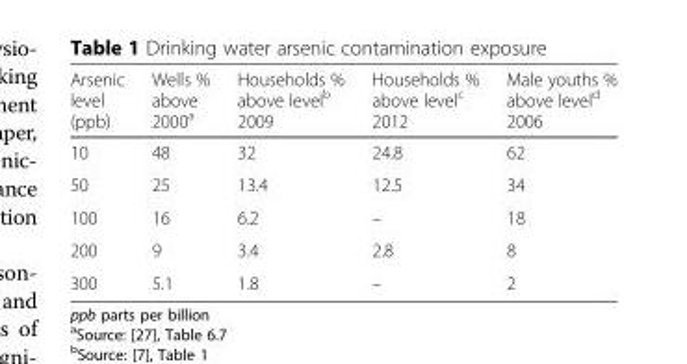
<table><thead><tr><td>Arsenic level (ppb)</td><td>Wells % above 2000<sup>a</sup></td><td>Households % above level<sup>b</sup> 2009</td><td>Households % above level<sup>c</sup> 2012</td><td>Male youths % above level<sup>d</sup> 2006</td></tr></thead><tbody><tr><td>10</td><td>48</td><td>32</td><td>24.8</td><td>62</td></tr><tr><td>50</td><td>25</td><td>13.4</td><td>12.5</td><td>34</td></tr><tr><td>100</td><td>16</td><td>6.2</td><td>–</td><td>18</td></tr><tr><td>200</td><td>9</td><td>3.4</td><td>2.8</td><td>8</td></tr><tr><td>300</td><td>5.1</td><td>1.8</td><td>–</td><td>2</td></tr></tbody></table>